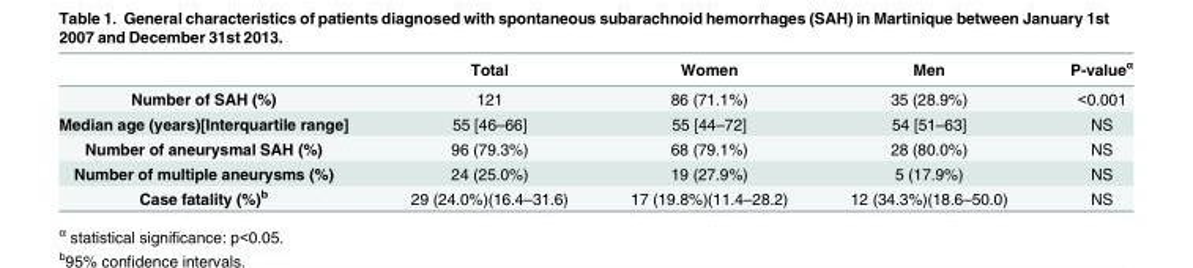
<table><thead><tr><td></td><td>Total</td><td>Women</td><td>Men</td><td>P-value<sup>α</sup></td></tr></thead><tbody><tr><td>Number of SAH (%)</td><td>121</td><td>86 (71.1%)</td><td>35 (28.9%)</td><td>&lt;0.001</td></tr><tr><td>Median age (years)[Interquartile range]</td><td>55 [46–66]</td><td>55 [44–72]</td><td>54 [51–63]</td><td>NS</td></tr><tr><td>Number of aneurysmal SAH (%)</td><td>96 (79.3%)</td><td>68 (79.1%)</td><td>28 (80.0%)</td><td>NS</td></tr><tr><td>Number of multiple aneurysms (%)</td><td>24 (25.0%)</td><td>19 (27.9%)</td><td>5 (17.9%)</td><td>NS</td></tr><tr><td>Case fatality (%)<sup>b</sup></td><td>29 (24.0%)(16.4–31.6)</td><td>17 (19.8%)(11.4–28.2)</td><td>12 (34.3%)(18.6–50.0)</td><td>NS</td></tr></tbody></table>